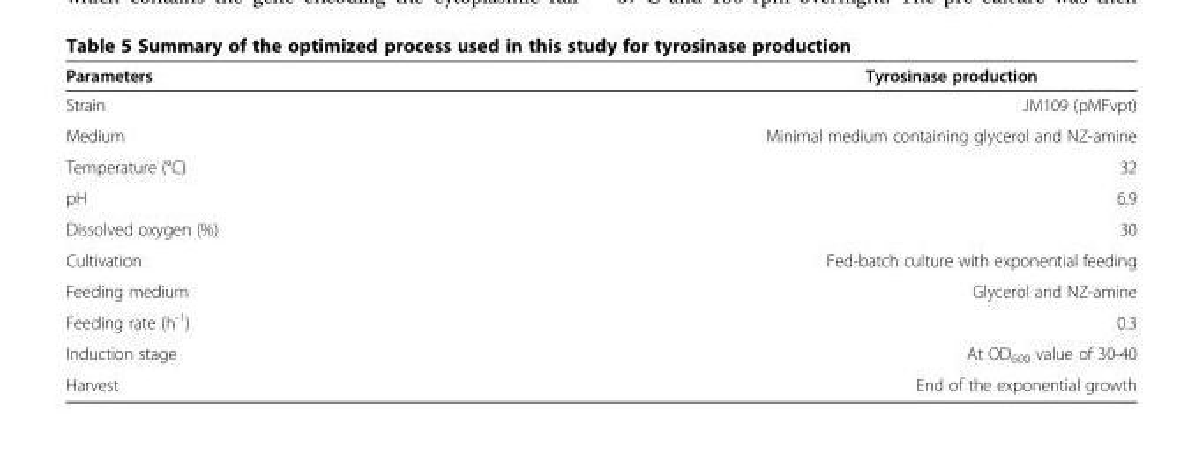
<table><thead><tr><td>Parameters</td><td>Tyrosinase production</td></tr></thead><tbody><tr><td>Strain</td><td>JM109 (pMFvpt)</td></tr><tr><td>Medium</td><td>Minimal medium containing glycerol and NZ-amine</td></tr><tr><td>Temperature (°C)</td><td>32</td></tr><tr><td>pH</td><td>6.9</td></tr><tr><td>Dissolved oxygen (%)</td><td>30</td></tr><tr><td>Cultivation</td><td>Fed-batch culture with exponential feeding</td></tr><tr><td>Feeding medium</td><td>Glycerol and NZ-amine</td></tr><tr><td>Feeding rate (h<sup>-1</sup>)</td><td>0.3</td></tr><tr><td>Induction stage</td><td>At OD<sub>600</sub> value of 30-40</td></tr><tr><td>Harvest</td><td>End of the exponential growth</td></tr></tbody></table>